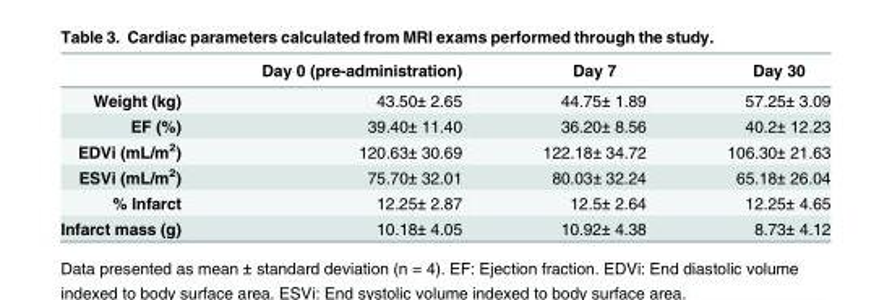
<table><thead><tr><td></td><td>Day 0 (pre-administration)</td><td>Day 7</td><td>Day 30</td></tr></thead><tbody><tr><td>Weight (kg)</td><td>43.50± 2.65</td><td>44.75± 1.89</td><td>57.25± 3.09</td></tr><tr><td>EF (%)</td><td>39.40± 11.40</td><td>36.20± 8.56</td><td>40.2± 12.23</td></tr><tr><td>EDVi (mL/m<sup>2</sup>)</td><td>120.63± 30.69</td><td>122.18± 34.72</td><td>106.30± 21.63</td></tr><tr><td>ESVi (mL/m<sup>2</sup>)</td><td>75.70± 32.01</td><td>80.03± 32.24</td><td>65.18± 26.04</td></tr><tr><td>% Infarct</td><td>12.25± 2.87</td><td>12.5± 2.64</td><td>12.25± 4.65</td></tr><tr><td>Infarct mass (g)</td><td>10.18± 4.05</td><td>10.92± 4.38</td><td>8.73± 4.12</td></tr></tbody></table>